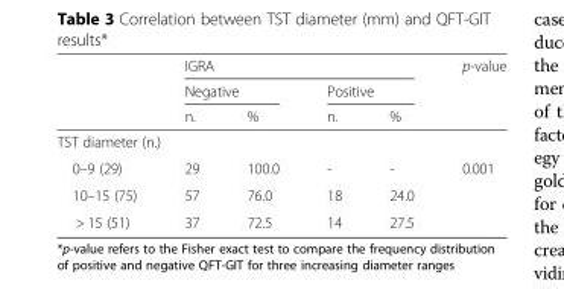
<table><thead><tr><td rowspan="3"></td><td colspan="4">IGRA</td><td rowspan="3">p-value</td></tr><tr><td colspan="2">Negative</td><td colspan="2">Positive</td></tr><tr><td>n.</td><td>%</td><td>n.</td><td>%</td></tr></thead><tbody><tr><td colspan="6">TST diameter (n.)</td></tr><tr><td>0–9 (29)</td><td>29</td><td>100.0</td><td>-</td><td>-</td><td rowspan="3">0.001</td></tr><tr><td>10–15 (75)</td><td>57</td><td>76.0</td><td>18</td><td>24.0</td></tr><tr><td>&gt; 15 (51)</td><td>37</td><td>72.5</td><td>14</td><td>27.5</td></tr></tbody></table>